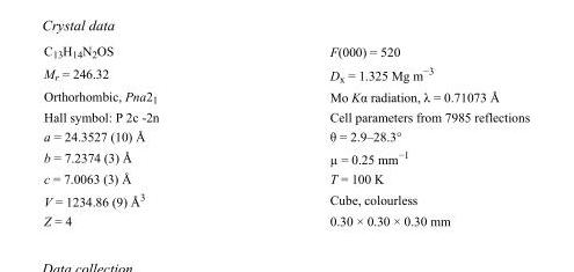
<table><tbody><tr><td>C<sub>13</sub>H<sub>14</sub>N<sub>2</sub>OS</td><td>F(000) = 520</td></tr><tr><td>M<sub>r</sub> = 246.32</td><td>D<sub>x</sub> = 1.325 Mg m<sup>−3</sup></td></tr><tr><td>Orthorhombic, Pna2<sub>1</sub></td><td>Mo Kα radiation, λ = 0.71073 Å</td></tr><tr><td>Hall symbol: P 2c -2n</td><td>Cell parameters from 7985 reflections</td></tr><tr><td>a = 24.3527 (10) Å</td><td>θ = 2.9–28.3°</td></tr><tr><td>b = 7.2374 (3) Å</td><td>µ = 0.25 mm<sup>−1</sup></td></tr><tr><td>c = 7.0063 (3) Å</td><td>T = 100 K</td></tr><tr><td>V = 1234.86 (9) Å<sup>3</sup></td><td>Cube, colourless</td></tr><tr><td>Z = 4</td><td>0.30 × 0.30 × 0.30 mm</td></tr></tbody></table>